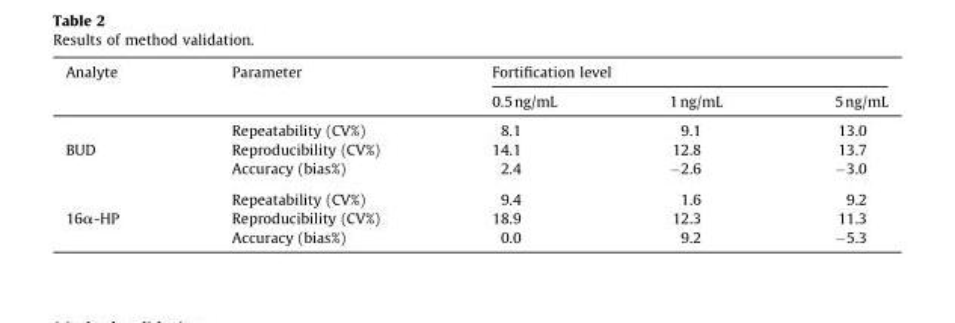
<table><thead><tr><td rowspan="2">Analyte</td><td rowspan="2">Parameter</td><td colspan="3">Fortification level</td></tr><tr><td>0.5ng/mL</td><td>1ng/mL</td><td>5ng/mL</td></tr></thead><tbody><tr><td></td><td>Repeatability (CV%)</td><td>8.1</td><td>9.1</td><td>13.0</td></tr><tr><td rowspan="3">BUD</td><td>Reproducibility (CV%)</td><td>14.1</td><td>12.8</td><td>13.7</td></tr><tr><td>Accuracy (bias%)</td><td>2.4</td><td>−2.6</td><td>−3.0</td></tr><tr><td>Repeatability (CV%)</td><td>9.4</td><td>1.6</td><td>9.2</td></tr><tr><td rowspan="2">16α-HP</td><td>Reproducibility (CV%)</td><td>18.9</td><td>12.3</td><td>11.3</td></tr><tr><td>Accuracy (bias%)</td><td>0.0</td><td>9.2</td><td>−5.3</td></tr></tbody></table>